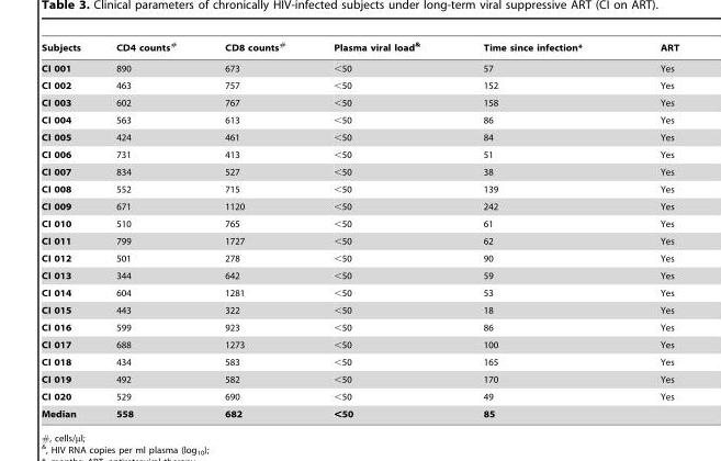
<table><thead><tr><td>Subjects</td><td>CD4 counts#</td><td>CD8 counts#</td><td>Plasma viral load&amp;</td><td>Time since infection*</td><td>ART</td></tr></thead><tbody><tr><td>CI 001</td><td>890</td><td>673</td><td>&lt;50</td><td>57</td><td>Yes</td></tr><tr><td>CI 002</td><td>463</td><td>757</td><td>&lt;50</td><td>152</td><td>Yes</td></tr><tr><td>CI 003</td><td>602</td><td>767</td><td>&lt;50</td><td>158</td><td>Yes</td></tr><tr><td>CI 004</td><td>563</td><td>613</td><td>&lt;50</td><td>86</td><td>Yes</td></tr><tr><td>CI 005</td><td>424</td><td>461</td><td>&lt;50</td><td>84</td><td>Yes</td></tr><tr><td>CI 006</td><td>731</td><td>413</td><td>&lt;50</td><td>51</td><td>Yes</td></tr><tr><td>CI 007</td><td>834</td><td>527</td><td>&lt;50</td><td>38</td><td>Yes</td></tr><tr><td>CI 008</td><td>552</td><td>715</td><td>&lt;50</td><td>139</td><td>Yes</td></tr><tr><td>CI 009</td><td>671</td><td>1120</td><td>&lt;50</td><td>242</td><td>Yes</td></tr><tr><td>CI 010</td><td>510</td><td>765</td><td>&lt;50</td><td>61</td><td>Yes</td></tr><tr><td>CI 011</td><td>799</td><td>1727</td><td>&lt;50</td><td>62</td><td>Yes</td></tr><tr><td>CI 012</td><td>501</td><td>278</td><td>&lt;50</td><td>90</td><td>Yes</td></tr><tr><td>CI 013</td><td>344</td><td>642</td><td>&lt;50</td><td>59</td><td>Yes</td></tr><tr><td>CI 014</td><td>604</td><td>1281</td><td>&lt;50</td><td>53</td><td>Yes</td></tr><tr><td>CI 015</td><td>443</td><td>322</td><td>&lt;50</td><td>18</td><td>Yes</td></tr><tr><td>CI 016</td><td>599</td><td>923</td><td>&lt;50</td><td>86</td><td>Yes</td></tr><tr><td>CI 017</td><td>688</td><td>1273</td><td>&lt;50</td><td>100</td><td>Yes</td></tr><tr><td>CI 018</td><td>434</td><td>583</td><td>&lt;50</td><td>165</td><td>Yes</td></tr><tr><td>CI 019</td><td>492</td><td>582</td><td>&lt;50</td><td>170</td><td>Yes</td></tr><tr><td>CI 020</td><td>529</td><td>690</td><td>&lt;50</td><td>49</td><td>Yes</td></tr><tr><td>Median</td><td>558</td><td>682</td><td>&lt;50</td><td>85</td><td></td></tr></tbody></table>